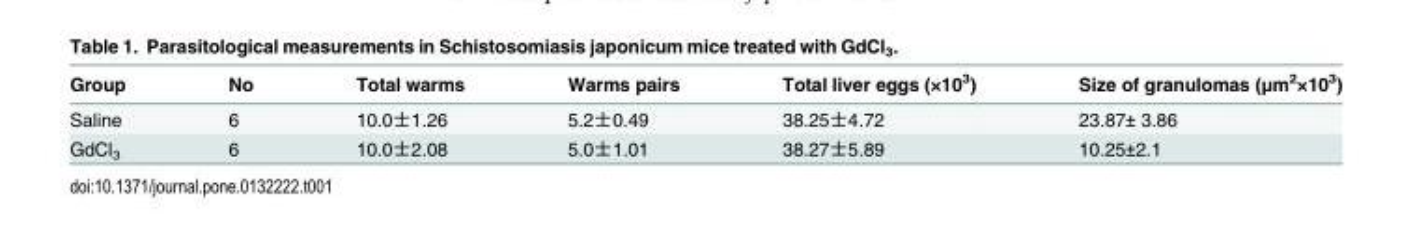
<table><thead><tr><td>Group</td><td>No</td><td>Total warms</td><td>Warms pairs</td><td>Total liver eggs (×10<sup>3</sup>)</td><td>Size of granulomas (μm<sup>2</sup>×10<sup>3</sup>)</td></tr></thead><tbody><tr><td>Saline</td><td>6</td><td>10.0士1.26</td><td>5.2士0.49</td><td>38.25士4.72</td><td>23.87± 3.86</td></tr><tr><td>GdCl<sub>3</sub></td><td>6</td><td>10.0士2.08</td><td>5.0士1.01</td><td>38.27士5.89</td><td>10.25±2.1</td></tr></tbody></table>